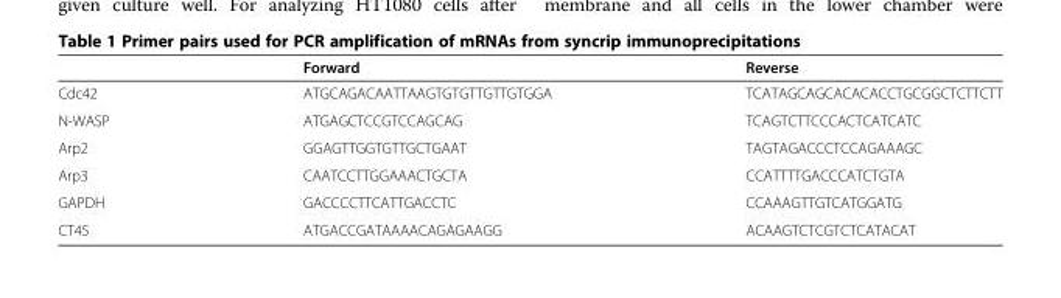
<table><thead><tr><td></td><td>Forward</td><td>Reverse</td></tr></thead><tbody><tr><td>Cdc42</td><td>ATGCAGACAATTAAGTGTGTTGTTGTGGA</td><td>TCATAGCAGCACACACCTGCGGCTCTTCTT</td></tr><tr><td>N-WASP</td><td>ATGAGCTCCGTCCAGCAG</td><td>TCAGTCTTCCCACTCATCATC</td></tr><tr><td>Arp2</td><td>GGAGTTGGTGTTGCTGAAT</td><td>TAGTAGACCCTCCAGAAAGC</td></tr><tr><td>Arp3</td><td>CAATCCTTGGAAACTGCTA</td><td>CCATTTTGACCCATCTGTA</td></tr><tr><td>GAPDH</td><td>GACCCCTTCATTGACCTC</td><td>CCAAAGTTGTCATGGATG</td></tr><tr><td>CT45</td><td>ATGACCGATAAAACAGAGAAGG</td><td>ACAAGTCTCGTCTCATACAT</td></tr></tbody></table>